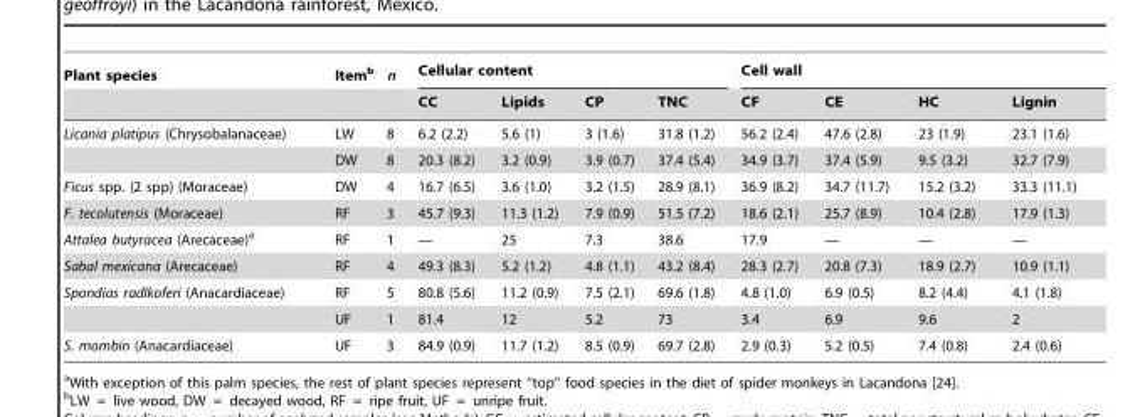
<table><thead><tr><td rowspan="2">Plant species</td><td rowspan="2">Item<sup>b</sup></td><td rowspan="2">n</td><td colspan="4">Cellular content</td><td colspan="4">Cell wall</td></tr><tr><td>CC</td><td>Lipids</td><td>CP</td><td>TNC</td><td>CF</td><td>CE</td><td>HC</td><td>Lignin</td></tr></thead><tbody><tr><td rowspan="2">Licania platipus (Chrysobalanaceae)</td><td>LW</td><td>8</td><td>6.2 (2.2)</td><td>5.6 (1)</td><td>3 (1.6)</td><td>31.8 (1.2)</td><td>56.2 (2.4)</td><td>47.6 (2.8)</td><td>23 (1.9)</td><td>23.1 (1.6)</td></tr><tr><td>DW</td><td>8</td><td>20.3 (8.2)</td><td>3.2 (0.9)</td><td>3.9 (0.7)</td><td>37.4 (5.4)</td><td>34.9 (3.7)</td><td>37.4 (5.9)</td><td>9.5 (3.2)</td><td>32.7 (7.9)</td></tr><tr><td>Ficus spp. (2 spp) (Moraceae)</td><td>DW</td><td>4</td><td>16.7 (6.5)</td><td>3.6 (1.0)</td><td>3.2 (1.5)</td><td>28.9 (8.1)</td><td>36.9 (8.2)</td><td>34.7 (11.7)</td><td>15.2 (3.2)</td><td>33.3 (11.1)</td></tr><tr><td>F. tecolutensis (Moraceae)</td><td>RF</td><td>3</td><td>45.7 (9.3)</td><td>11.3 (1.2)</td><td>7.9 (0.9)</td><td>51.5 (7.2)</td><td>18.6 (2.1)</td><td>25.7 (8.9)</td><td>10.4 (2.8)</td><td>17.9 (1.3)</td></tr><tr><td>Attalea butyracea (Arecaceae)<sup>a</sup></td><td>RF</td><td>1</td><td>—</td><td>25</td><td>7.3</td><td>38.6</td><td>17.9</td><td>—</td><td>—</td><td>—</td></tr><tr><td>Sabal mexicana (Arecaceae)</td><td>RF</td><td>4</td><td>49.3 (8.3)</td><td>5.2 (1.2)</td><td>4.8 (1.1)</td><td>43.2 (8.4)</td><td>28.3 (2.7)</td><td>20.8 (7.3)</td><td>18.9 (2.7)</td><td>10.9 (1.1)</td></tr><tr><td rowspan="2">Spondias radlkoferi (Anacardiaceae)</td><td>RF</td><td>5</td><td>80.8 (5.6)</td><td>11.2 (0.9)</td><td>7.5 (2.1)</td><td>69.6 (1.8)</td><td>4.8 (1.0)</td><td>6.9 (0.5)</td><td>8.2 (4.4)</td><td>4.1 (1.8)</td></tr><tr><td>UF</td><td>1</td><td>81.4</td><td>12</td><td>5.2</td><td>73</td><td>3.4</td><td>6.9</td><td>9.6</td><td>2</td></tr><tr><td>S. mombin (Anacardiaceae)</td><td>UF</td><td>3</td><td>84.9 (0.9)</td><td>11.7 (1.2)</td><td>8.5 (0.9)</td><td>69.7 (2.8)</td><td>2.9 (0.3)</td><td>5.2 (0.5)</td><td>7.4 (0.8)</td><td>2.4 (0.6)</td></tr></tbody></table>